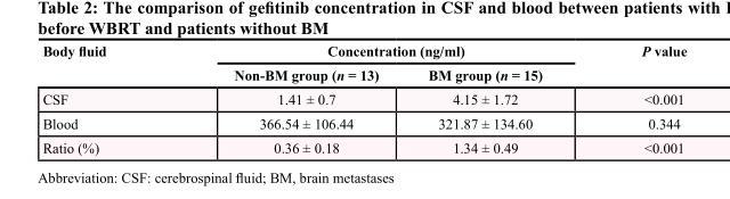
<table><thead><tr><td rowspan="2">Body fluid</td><td colspan="2">Concentration (ng/ml)</td><td rowspan="2">P value</td></tr><tr><td>Non-BM group (n = 13)</td><td>BM group (n = 15)</td></tr></thead><tbody><tr><td>CSF</td><td>1.41 ± 0.7</td><td>4.15 ± 1.72</td><td>&lt;0.001</td></tr><tr><td>Blood</td><td>366.54 ± 106.44</td><td>321.87 ± 134.60</td><td>0.344</td></tr><tr><td>Ratio (%)</td><td>0.36 ± 0.18</td><td>1.34 ± 0.49</td><td>&lt;0.001</td></tr></tbody></table>